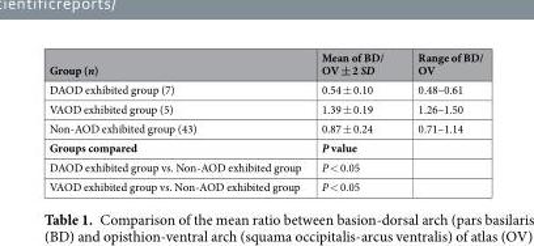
<table><thead><tr><td>Group (n)</td><td>Mean of BD/ OV ± 2 SD</td><td>Range of BD/ OV</td></tr></thead><tbody><tr><td>DAOD exhibited group (7)</td><td>0.54 ± 0.10</td><td>0.48–0.61</td></tr><tr><td>VAOD exhibited group (5)</td><td>1.39 ± 0.19</td><td>1.26–1.50</td></tr><tr><td>Non-AOD exhibited group (43)</td><td>0.87 ± 0.24</td><td>0.71–1.14</td></tr><tr><td>Groups compared</td><td>P value</td><td></td></tr><tr><td>DAOD exhibited group vs. Non-AOD exhibited group</td><td>P &lt; 0.05</td><td></td></tr><tr><td>VAOD exhibited group vs. Non-AOD exhibited group</td><td>P &lt; 0.05</td><td></td></tr></tbody></table>